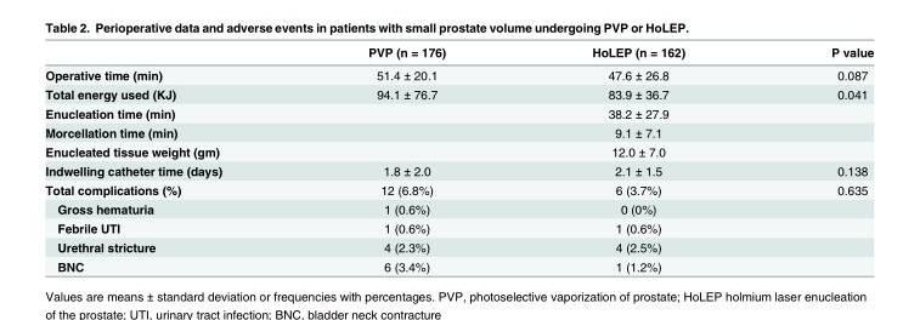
<table><thead><tr><td></td><td>PVP (n = 176)</td><td>HoLEP (n = 162)</td><td>P value</td></tr></thead><tbody><tr><td>Operative time (min)</td><td>51.4 ± 20.1</td><td>47.6 ± 26.8</td><td>0.087</td></tr><tr><td>Total energy used (KJ)</td><td>94.1 ± 76.7</td><td>83.9 ± 36.7</td><td>0.041</td></tr><tr><td>Enucleation time (min)</td><td></td><td>38.2 ± 27.9</td><td></td></tr><tr><td>Morcellation time (min)</td><td></td><td>9.1 ± 7.1</td><td></td></tr><tr><td>Enucleated tissue weight (gm)</td><td></td><td>12.0 ± 7.0</td><td></td></tr><tr><td>Indwelling catheter time (days)</td><td>1.8 ± 2.0</td><td>2.1 ± 1.5</td><td>0.138</td></tr><tr><td>Total complications (%)</td><td>12 (6.8%)</td><td>6 (3.7%)</td><td>0.635</td></tr><tr><td>Gross hematuria</td><td>1 (0.6%)</td><td>0 (0%)</td><td></td></tr><tr><td>Febrile UTI</td><td>1 (0.6%)</td><td>1 (0.6%)</td><td></td></tr><tr><td>Urethral stricture</td><td>4 (2.3%)</td><td>4 (2.5%)</td><td></td></tr><tr><td>BNC</td><td>6 (3.4%)</td><td>1 (1.2%)</td><td></td></tr></tbody></table>